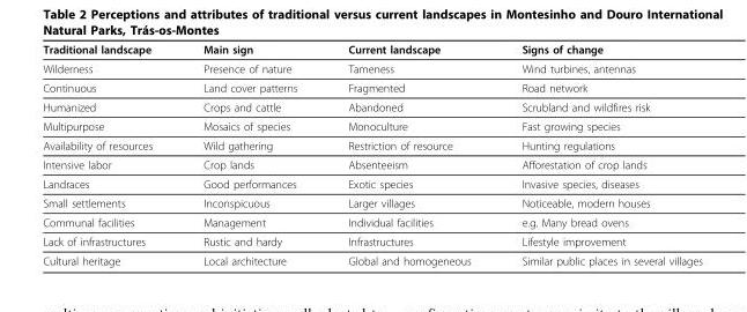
<table><thead><tr><td>Traditional landscape</td><td>Main sign</td><td>Current landscape</td><td>Signs of change</td></tr></thead><tbody><tr><td>Wilderness</td><td>Presence of nature</td><td>Tameness</td><td>Wind turbines, antennas</td></tr><tr><td>Continuous</td><td>Land cover patterns</td><td>Fragmented</td><td>Road network</td></tr><tr><td>Humanized</td><td>Crops and cattle</td><td>Abandoned</td><td>Scrubland and wildfires risk</td></tr><tr><td>Multipurpose</td><td>Mosaics of species</td><td>Monoculture</td><td>Fast growing species</td></tr><tr><td>Availability of resources</td><td>Wild gathering</td><td>Restriction of resource</td><td>Hunting regulations</td></tr><tr><td>Intensive labor</td><td>Crop lands</td><td>Absenteeism</td><td>Afforestation of crop lands</td></tr><tr><td>Landraces</td><td>Good performances</td><td>Exotic species</td><td>Invasive species, diseases</td></tr><tr><td>Small settlements</td><td>Inconspicuous</td><td>Larger villages</td><td>Noticeable, modern houses</td></tr><tr><td>Communal facilities</td><td>Management</td><td>Individual facilities</td><td>e.g. Many bread ovens</td></tr><tr><td>Lack of infrastructures</td><td>Rustic and hardy</td><td>Infrastructures</td><td>Lifestyle improvement</td></tr><tr><td>Cultural heritage</td><td>Local architecture</td><td>Global and homogeneous</td><td>Similar public places in several villages</td></tr></tbody></table>